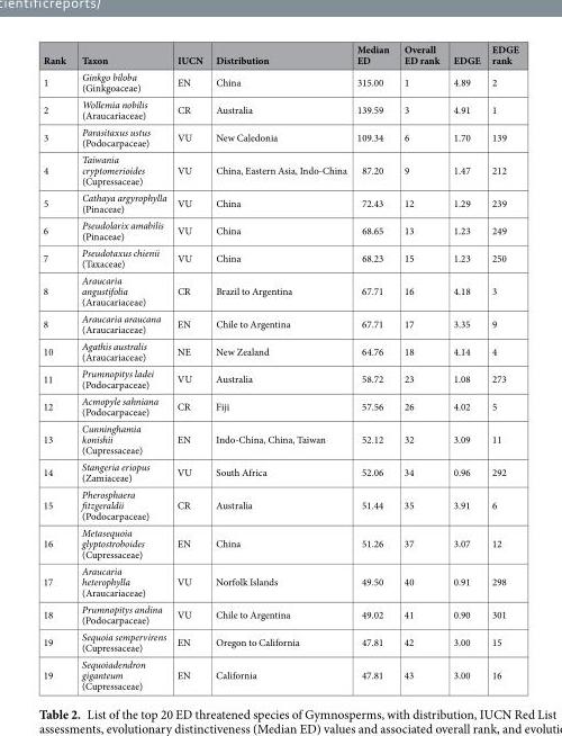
<table><thead><tr><td>Rank</td><td>Taxon</td><td>IUCN</td><td>Distribution</td><td>Median ED</td><td>Overall ED rank</td><td>EDGE</td><td>EDGE rank</td></tr></thead><tbody><tr><td>1</td><td>Ginkgo biloba (Ginkgoaceae)</td><td>EN</td><td>China</td><td>315.00</td><td>1</td><td>4.89</td><td>2</td></tr><tr><td>2</td><td>Wollemia nobilis (Araucariaceae)</td><td>CR</td><td>Australia</td><td>139.59</td><td>3</td><td>4.91</td><td>1</td></tr><tr><td>3</td><td>Parasitaxus ustus (Podocarpaceae)</td><td>VU</td><td>New Caledonia</td><td>109.34</td><td>6</td><td>1.70</td><td>139</td></tr><tr><td>4</td><td>Taiwania cryptomerioides (Cupressaceae)</td><td>VU</td><td>China, Eastern Asia, Indo-China</td><td>87.20</td><td>9</td><td>1.47</td><td>212</td></tr><tr><td>5</td><td>Cathaya argyrophylla (Pinaceae)</td><td>VU</td><td>China</td><td>72.43</td><td>12</td><td>1.29</td><td>239</td></tr><tr><td>6</td><td>Pseudolarix amabilis (Pinaceae)</td><td>VU</td><td>China</td><td>68.65</td><td>13</td><td>1.23</td><td>249</td></tr><tr><td>7</td><td>Pseudotaxus chienii (Taxaceae)</td><td>VU</td><td>China</td><td>68.23</td><td>15</td><td>1.23</td><td>250</td></tr><tr><td>8</td><td>Araucaria angustifolia (Araucariaceae)</td><td>CR</td><td>Brazil to Argentina</td><td>67.71</td><td>16</td><td>4.18</td><td>3</td></tr><tr><td>8</td><td>Araucaria araucana (Araucariaceae)</td><td>EN</td><td>Chile to Argentina</td><td>67.71</td><td>17</td><td>3.35</td><td>9</td></tr><tr><td>10</td><td>Agathis australis (Araucariaceae)</td><td>NE</td><td>New Zealand</td><td>64.76</td><td>18</td><td>4.14</td><td>4</td></tr><tr><td>11</td><td>Prumnopitys ladei (Podocarpaceae)</td><td>VU</td><td>Australia</td><td>58.72</td><td>23</td><td>1.08</td><td>273</td></tr><tr><td>12</td><td>Acmopyle sahniana (Podocarpaceae)</td><td>CR</td><td>Fiji</td><td>57.56</td><td>26</td><td>4.02</td><td>5</td></tr><tr><td>13</td><td>Cunninghamia konishii (Cupressaceae)</td><td>EN</td><td>Indo-China, China, Taiwan</td><td>52.12</td><td>32</td><td>3.09</td><td>11</td></tr><tr><td>14</td><td>Stangeria eriopus (Zamiaceae)</td><td>VU</td><td>South Africa</td><td>52.06</td><td>34</td><td>0.96</td><td>292</td></tr><tr><td>15</td><td>Pherosphaera fitzgeraldii (Podocarpaceae)</td><td>CR</td><td>Australia</td><td>51.44</td><td>35</td><td>3.91</td><td>6</td></tr><tr><td>16</td><td>Metasequoia glyptostroboides (Cupressaceae)</td><td>EN</td><td>China</td><td>51.26</td><td>37</td><td>3.07</td><td>12</td></tr><tr><td>17</td><td>Araucaria heterophylla (Araucariaceae)</td><td>VU</td><td>Norfolk Islands</td><td>49.50</td><td>40</td><td>0.91</td><td>298</td></tr><tr><td>18</td><td>Prumnopitys andina (Podocarpaceae)</td><td>VU</td><td>Chile to Argentina</td><td>49.02</td><td>41</td><td>0.90</td><td>301</td></tr><tr><td>19</td><td>Sequoia sempervirens (Cupressaceae)</td><td>EN</td><td>Oregon to California</td><td>47.81</td><td>42</td><td>3.00</td><td>15</td></tr><tr><td>19</td><td>Sequoiadendron giganteum (Cupressaceae)</td><td>EN</td><td>California</td><td>47.81</td><td>43</td><td>3.00</td><td>16</td></tr></tbody></table>